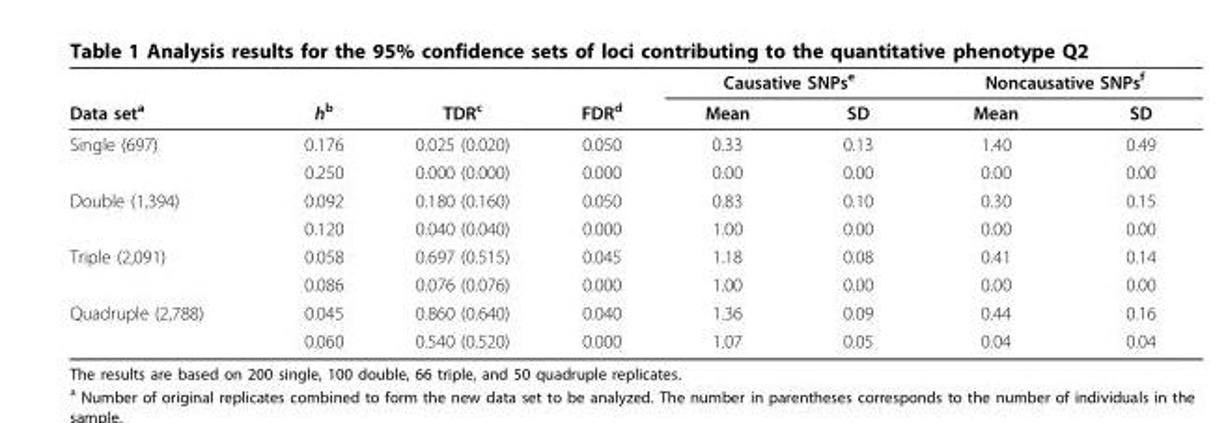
<table><thead><tr><td rowspan="2">Data set<sup>a</sup></td><td rowspan="2">h<sup>b</sup></td><td rowspan="2">TDR<sup>c</sup></td><td rowspan="2">FDR<sup>d</sup></td><td colspan="2">Causative SNPs<sup>e</sup></td><td colspan="2">Noncausative SNPs<sup>f</sup></td></tr><tr><td>Mean</td><td>SD</td><td>Mean</td><td>SD</td></tr></thead><tbody><tr><td rowspan="2">Single (697)</td><td>0.176</td><td>0.025 (0.020)</td><td>0.050</td><td>0.33</td><td>0.13</td><td>1.40</td><td>0.49</td></tr><tr><td>0.250</td><td>0.000 (0.000)</td><td>0.000</td><td>0.00</td><td>0.00</td><td>0.00</td><td>0.00</td></tr><tr><td rowspan="2">Double (1,394)</td><td>0.092</td><td>0.180 (0.160)</td><td>0.050</td><td>0.83</td><td>0.10</td><td>0.30</td><td>0.15</td></tr><tr><td>0.120</td><td>0.040 (0.040)</td><td>0.000</td><td>1.00</td><td>0.00</td><td>0.00</td><td>0.00</td></tr><tr><td rowspan="2">Triple (2,091)</td><td>0.058</td><td>0.697 (0.515)</td><td>0.045</td><td>1.18</td><td>0.08</td><td>0.41</td><td>0.14</td></tr><tr><td>0.086</td><td>0.076 (0.076)</td><td>0.000</td><td>1.00</td><td>0.00</td><td>0.00</td><td>0.00</td></tr><tr><td rowspan="2">Quadruple (2,788)</td><td>0.045</td><td>0.860 (0.640)</td><td>0.040</td><td>1.36</td><td>0.09</td><td>0.44</td><td>0.16</td></tr><tr><td>0.060</td><td>0.540 (0.520)</td><td>0.000</td><td>1.07</td><td>0.05</td><td>0.04</td><td>0.04</td></tr></tbody></table>